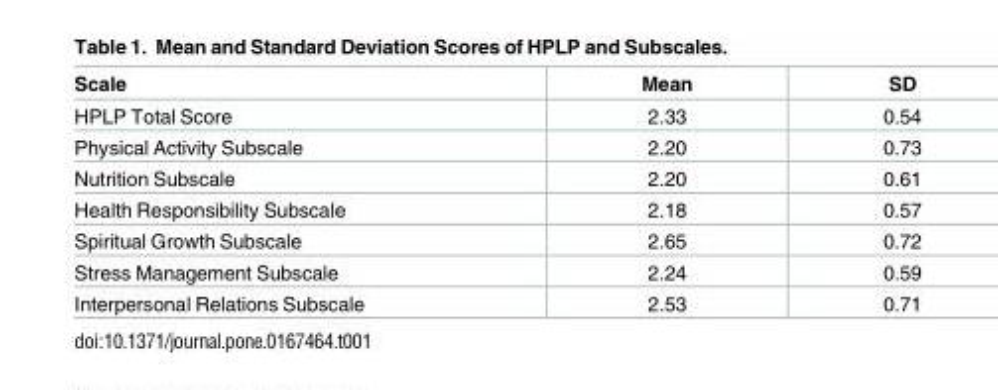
<table><thead><tr><td>Scale</td><td>Mean</td><td>SD</td></tr></thead><tbody><tr><td>HPLP Total Score</td><td>2.33</td><td>0.54</td></tr><tr><td>Physical Activity Subscale</td><td>2.20</td><td>0.73</td></tr><tr><td>Nutrition Subscale</td><td>2.20</td><td>0.61</td></tr><tr><td>Health Responsibility Subscale</td><td>2.18</td><td>0.57</td></tr><tr><td>Spiritual Growth Subscale</td><td>2.65</td><td>0.72</td></tr><tr><td>Stress Management Subscale</td><td>2.24</td><td>0.59</td></tr><tr><td>Interpersonal Relations Subscale</td><td>2.53</td><td>0.71</td></tr></tbody></table>